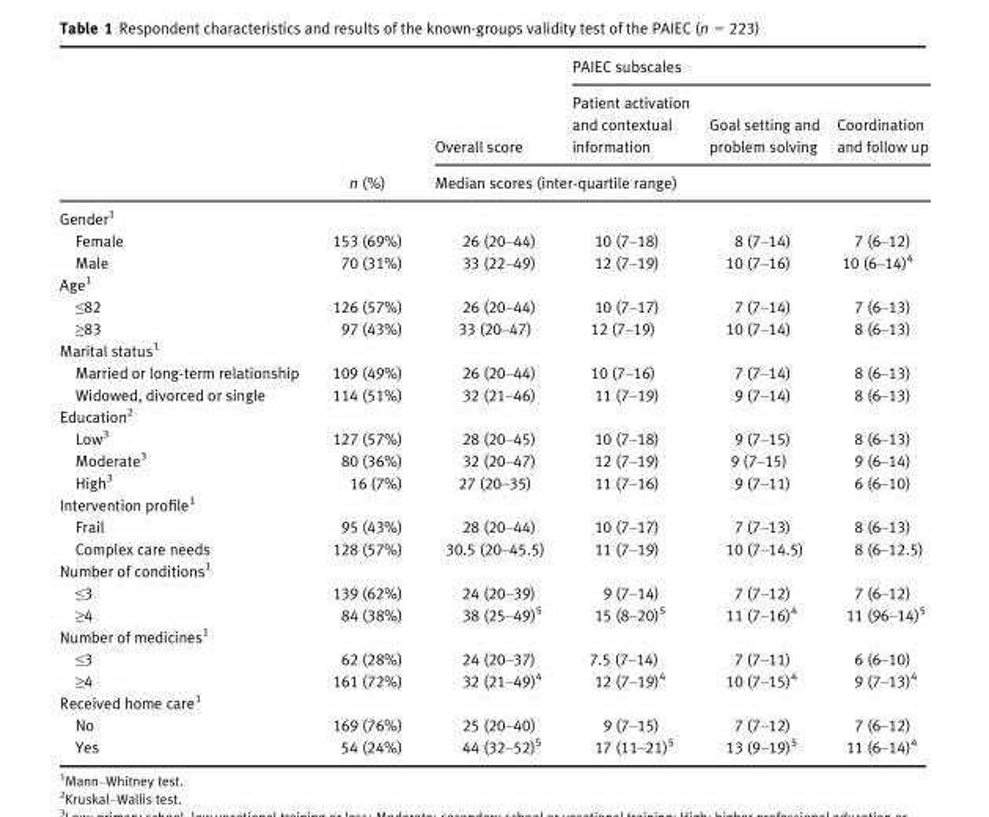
<table><thead><tr><td rowspan="3"></td><td rowspan="3">n (%)</td><td rowspan="2">Overall score</td><td colspan="3">PAIEC subscales</td></tr><tr><td>Patient activation and contextual information</td><td>Goal setting and problem solving</td><td>Coordination and follow up</td></tr><tr><td colspan="4">Median scores (inter-quartile range)</td></tr></thead><tbody><tr><td colspan="6">Gender1</td></tr><tr><td>Female</td><td>153 (69%)</td><td>26 (20–44)</td><td>10 (7–18)</td><td>8 (7–14)</td><td>7 (6–12)</td></tr><tr><td>Male</td><td>70 (31%)</td><td>33 (22–49)</td><td>12 (7–19)</td><td>10 (7–16)</td><td>10 (6–14)4</td></tr><tr><td colspan="6">Age1</td></tr><tr><td>≤82</td><td>126 (57%)</td><td>26 (20–44)</td><td>10 (7–17)</td><td>7 (7–14)</td><td>7 (6–13)</td></tr><tr><td>≥83</td><td>97 (43%)</td><td>33 (20–47)</td><td>12 (7–19)</td><td>10 (7–14)</td><td>8 (6–13)</td></tr><tr><td colspan="6">Marital status1</td></tr><tr><td>Married or long-term relationship</td><td>109 (49%)</td><td>26 (20–44)</td><td>10 (7–16)</td><td>7 (7–14)</td><td>8 (6–13)</td></tr><tr><td>Widowed, divorced or single</td><td>114 (51%)</td><td>32 (21–46)</td><td>11 (7–19)</td><td>9 (7–14)</td><td>8 (6–13)</td></tr><tr><td colspan="6">Education2</td></tr><tr><td>Low3</td><td>127 (57%)</td><td>28 (20–45)</td><td>10 (7–18)</td><td>9 (7–15)</td><td>8 (6–13)</td></tr><tr><td>Moderate3</td><td>80 (36%)</td><td>32 (20–47)</td><td>12 (7–19)</td><td>9 (7–15)</td><td>9 (6–14)</td></tr><tr><td>High3</td><td>16 (7%)</td><td>27 (20–35)</td><td>11 (7–16)</td><td>9 (7–11)</td><td>6 (6–10)</td></tr><tr><td colspan="6">Intervention profile1</td></tr><tr><td>Frail</td><td>95 (43%)</td><td>28 (20–44)</td><td>10 (7–17)</td><td>7 (7–13)</td><td>8 (6–13)</td></tr><tr><td>Complex care needs</td><td>128 (57%)</td><td>30.5 (20–45.5)</td><td>11 (7–19)</td><td>10 (7–14.5)</td><td>8 (6–12.5)</td></tr><tr><td colspan="6">Number of conditions1</td></tr><tr><td>≤3</td><td>139 (62%)</td><td>24 (20–39)</td><td>9 (7–14)</td><td>7 (7–12)</td><td>7 (6–12)</td></tr><tr><td>≥4</td><td>84 (38%)</td><td>38 (25–49)5</td><td>15 (8–20)5</td><td>11 (7–16)4</td><td>11 (96–14)5</td></tr><tr><td colspan="6">Number of medicines1</td></tr><tr><td>≤3</td><td>62 (28%)</td><td>24 (20–37)</td><td>7.5 (7–14)</td><td>7 (7–11)</td><td>6 (6–10)</td></tr><tr><td>≥4</td><td>161 (72%)</td><td>32 (21–49)4</td><td>12 (7–19)4</td><td>10 (7–15)4</td><td>9 (7–13)4</td></tr><tr><td colspan="6">Received home care1</td></tr><tr><td>No</td><td>169 (76%)</td><td>25 (20–40)</td><td>9 (7–15)</td><td>7 (7–12)</td><td>7 (6–12)</td></tr><tr><td>Yes</td><td>54 (24%)</td><td>44 (32–52)5</td><td>17 (11–21)5</td><td>13 (9–19)5</td><td>11 (6–14)4</td></tr></tbody></table>